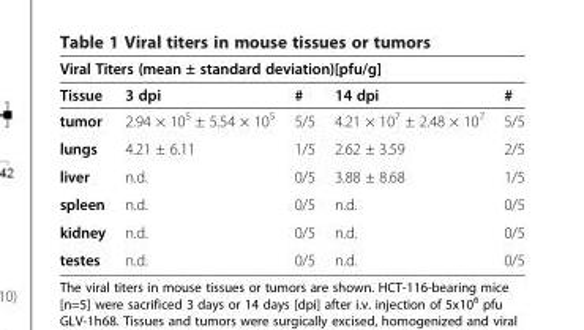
<table><thead><tr><td colspan="5">Viral Titers (mean ± standard deviation)[pfu/g]</td></tr><tr><td>Tissue</td><td>3 dpi</td><td>#</td><td>14 dpi</td><td>#</td></tr></thead><tbody><tr><td>tumor</td><td>2.94 × 10<sup>5</sup> ± 5.54 × 10<sup>5</sup></td><td>5/5</td><td>4.21 × 10<sup>7</sup> ± 2.48 × 10<sup>7</sup></td><td>5/5</td></tr><tr><td>lungs</td><td>4.21 ± 6.11</td><td>1/5</td><td>2.62 ± 3.59</td><td>2/5</td></tr><tr><td>liver</td><td>n.d.</td><td>0/5</td><td>3.88 ± 8.68</td><td>1/5</td></tr><tr><td>spleen</td><td>n.d.</td><td>0/5</td><td>n.d.</td><td>0/5</td></tr><tr><td>kidney</td><td>n.d.</td><td>0/5</td><td>n.d.</td><td>0/5</td></tr><tr><td>testes</td><td>n.d.</td><td>0/5</td><td>n.d.</td><td>0/5</td></tr></tbody></table>